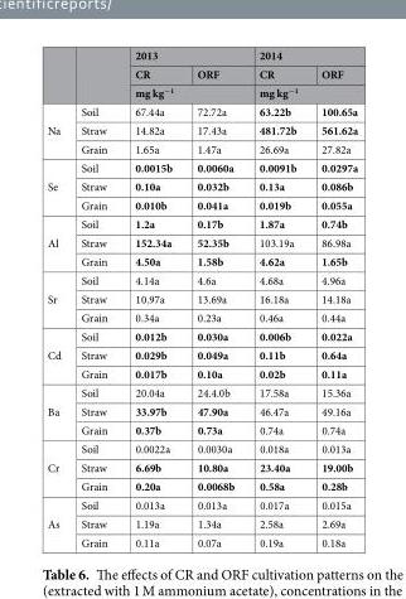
<table><thead><tr><td rowspan="3"></td><td rowspan="3"></td><td colspan="2">2013</td><td colspan="2">2014</td></tr><tr><td>CR</td><td>ORF</td><td>CR</td><td>ORF</td></tr><tr><td colspan="2">mg kg<sup>−1</sup></td><td colspan="2">mg kg<sup>−1</sup></td></tr></thead><tbody><tr><td rowspan="3">Na</td><td>Soil</td><td>67.44a</td><td>72.72a</td><td>63.22b</td><td>100.65a</td></tr><tr><td>Straw</td><td>14.82a</td><td>17.43a</td><td>481.72b</td><td>561.62a</td></tr><tr><td>Grain</td><td>1.65a</td><td>1.47a</td><td>26.69a</td><td>27.82a</td></tr><tr><td rowspan="3">Se</td><td>Soil</td><td>0.0015b</td><td>0.0060a</td><td>0.0091b</td><td>0.0297a</td></tr><tr><td>Straw</td><td>0.10a</td><td>0.032b</td><td>0.13a</td><td>0.086b</td></tr><tr><td>Grain</td><td>0.010b</td><td>0.041a</td><td>0.019b</td><td>0.055a</td></tr><tr><td rowspan="3">Al</td><td>Soil</td><td>1.2a</td><td>0.17b</td><td>1.87a</td><td>0.74b</td></tr><tr><td>Straw</td><td>152.34a</td><td>52.35b</td><td>103.19a</td><td>86.98a</td></tr><tr><td>Grain</td><td>4.50a</td><td>1.58b</td><td>4.62a</td><td>1.65b</td></tr><tr><td rowspan="3">Sr</td><td>Soil</td><td>4.14a</td><td>4.6a</td><td>4.68a</td><td>4.96a</td></tr><tr><td>Straw</td><td>10.97a</td><td>13.69a</td><td>16.18a</td><td>14.18a</td></tr><tr><td>Grain</td><td>0.34a</td><td>0.23a</td><td>0.46a</td><td>0.44a</td></tr><tr><td rowspan="3">Cd</td><td>Soil</td><td>0.012b</td><td>0.030a</td><td>0.006b</td><td>0.022a</td></tr><tr><td>Straw</td><td>0.029b</td><td>0.049a</td><td>0.11b</td><td>0.64a</td></tr><tr><td>Grain</td><td>0.017b</td><td>0.10a</td><td>0.02b</td><td>0.11a</td></tr><tr><td rowspan="3">Ba</td><td>Soil</td><td>20.04a</td><td>24.4.0b</td><td>17.58a</td><td>15.36a</td></tr><tr><td>Straw</td><td>33.97b</td><td>47.90a</td><td>46.47a</td><td>49.16a</td></tr><tr><td>Grain</td><td>0.37b</td><td>0.73a</td><td>0.74a</td><td>0.74a</td></tr><tr><td rowspan="3">Cr</td><td>Soil</td><td>0.0022a</td><td>0.0030a</td><td>0.018a</td><td>0.013a</td></tr><tr><td>Straw</td><td>6.69b</td><td>10.80a</td><td>23.40a</td><td>19.00b</td></tr><tr><td>Grain</td><td>0.20a</td><td>0.0068b</td><td>0.58a</td><td>0.28b</td></tr><tr><td rowspan="3">As</td><td>Soil</td><td>0.013a</td><td>0.013a</td><td>0.017a</td><td>0.015a</td></tr><tr><td>Straw</td><td>1.19a</td><td>1.34a</td><td>2.58a</td><td>2.69a</td></tr><tr><td>Grain</td><td>0.11a</td><td>0.07a</td><td>0.19a</td><td>0.18a</td></tr></tbody></table>